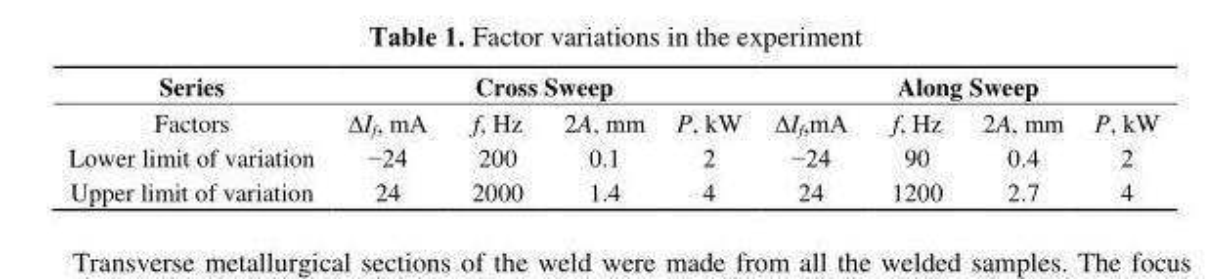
<table><thead><tr><td rowspan="2">Series Factors</td><td colspan="4">Cross Sweep</td><td colspan="4">Along Sweep</td></tr><tr><td>If, mА</td><td>f, Hz</td><td>2A, mm</td><td>P, kW</td><td>If,mА</td><td>f, Hz</td><td>2A, mm</td><td>P, kW</td></tr></thead><tbody><tr><td>Lower limit of variation</td><td>−24</td><td>200</td><td>0.1</td><td>2</td><td>−24</td><td>90</td><td>0.4</td><td>2</td></tr><tr><td>Upper limit of variation</td><td>24</td><td>2000</td><td>1.4</td><td>4</td><td>24</td><td>1200</td><td>2.7</td><td>4</td></tr></tbody></table>